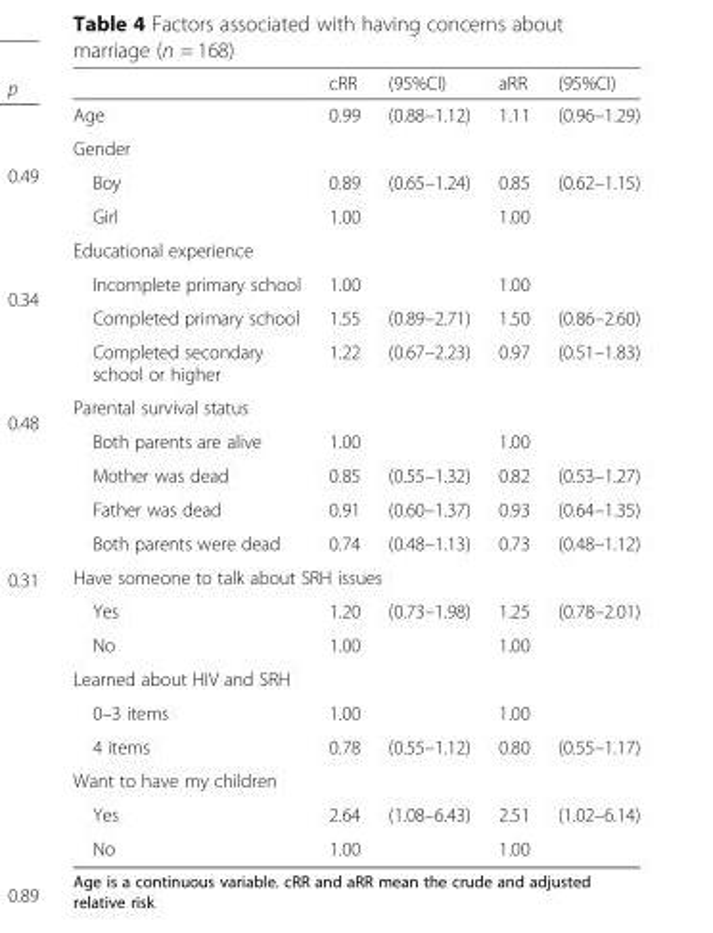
<table><thead><tr><td></td><td>cRR</td><td>(95%CI)</td><td>aRR</td><td>(95%CI)</td></tr></thead><tbody><tr><td>Age</td><td>0.99</td><td>(0.88–1.12)</td><td>1.11</td><td>(0.96–1.29)</td></tr><tr><td colspan="5">Gender</td></tr><tr><td>Boy</td><td>0.89</td><td>(0.65–1.24)</td><td>0.85</td><td>(0.62–1.15)</td></tr><tr><td>Girl</td><td>1.00</td><td></td><td>1.00</td><td></td></tr><tr><td colspan="5">Educational experience</td></tr><tr><td>Incomplete primary school</td><td>1.00</td><td></td><td>1.00</td><td></td></tr><tr><td>Completed primary school</td><td>1.55</td><td>(0.89–2.71)</td><td>1.50</td><td>(0.86–2.60)</td></tr><tr><td>Completed secondary school or higher</td><td>1.22</td><td>(0.67–2.23)</td><td>0.97</td><td>(0.51–1.83)</td></tr><tr><td colspan="5">Parental survival status</td></tr><tr><td>Both parents are alive</td><td>1.00</td><td></td><td>1.00</td><td></td></tr><tr><td>Mother was dead</td><td>0.85</td><td>(0.55–1.32)</td><td>0.82</td><td>(0.53–1.27)</td></tr><tr><td>Father was dead</td><td>0.91</td><td>(0.60–1.37)</td><td>0.93</td><td>(0.64–1.35)</td></tr><tr><td>Both parents were dead</td><td>0.74</td><td>(0.48–1.13)</td><td>0.73</td><td>(0.48–1.12)</td></tr><tr><td colspan="5">Have someone to talk about SRH issues</td></tr><tr><td>Yes</td><td>1.20</td><td>(0.73–1.98)</td><td>1.25</td><td>(0.78–2.01)</td></tr><tr><td>No</td><td>1.00</td><td></td><td>1.00</td><td></td></tr><tr><td colspan="5">Learned about HIV and SRH</td></tr><tr><td>0–3 items</td><td>1.00</td><td></td><td>1.00</td><td></td></tr><tr><td>4 items</td><td>0.78</td><td>(0.55–1.12)</td><td>0.80</td><td>(0.55–1.17)</td></tr><tr><td colspan="5">Want to have my children</td></tr><tr><td>Yes</td><td>2.64</td><td>(1.08–6.43)</td><td>2.51</td><td>(1.02–6.14)</td></tr><tr><td>No</td><td>1.00</td><td></td><td>1.00</td><td></td></tr></tbody></table>